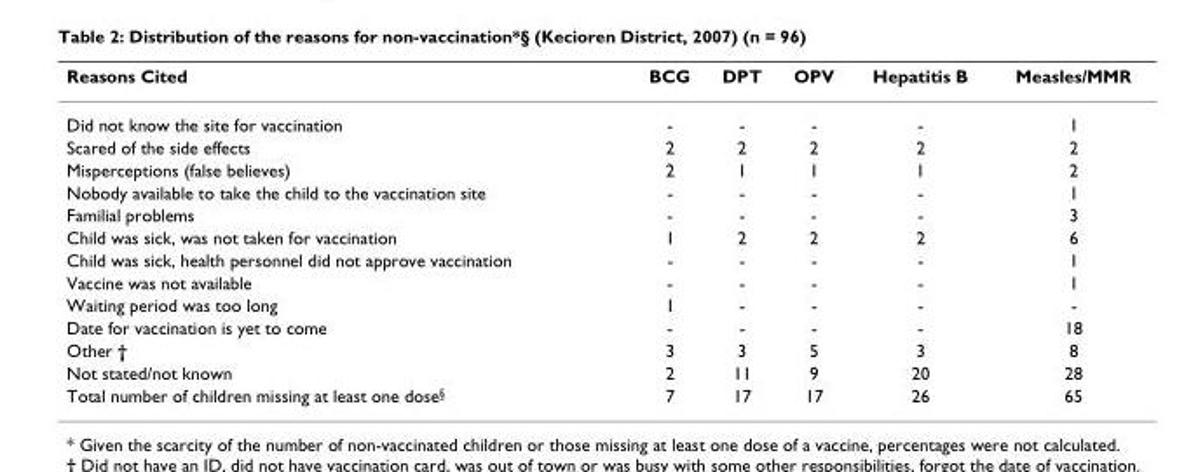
<table><thead><tr><td>Reasons Cited</td><td>BCG</td><td>DPT</td><td>OPV</td><td>Hepatitis B</td><td>Measles/MMR</td></tr></thead><tbody><tr><td>Did not know the site for vaccination</td><td>-</td><td>-</td><td>-</td><td>-</td><td>1</td></tr><tr><td>Scared of the side effects</td><td>2</td><td>2</td><td>2</td><td>2</td><td>2</td></tr><tr><td>Misperceptions (false believes)</td><td>2</td><td>1</td><td>1</td><td>1</td><td>2</td></tr><tr><td>Nobody available to take the child to the vaccination site</td><td>-</td><td>-</td><td>-</td><td>-</td><td>1</td></tr><tr><td>Familial problems</td><td>-</td><td>-</td><td>-</td><td>-</td><td>3</td></tr><tr><td>Child was sick, was not taken for vaccination</td><td>1</td><td>2</td><td>2</td><td>2</td><td>6</td></tr><tr><td>Child was sick, health personnel did not approve vaccination</td><td>-</td><td>-</td><td>-</td><td>-</td><td>1</td></tr><tr><td>Vaccine was not available</td><td>-</td><td>-</td><td>-</td><td>-</td><td>1</td></tr><tr><td>Waiting period was too long</td><td>1</td><td>-</td><td>-</td><td>-</td><td>-</td></tr><tr><td>Date for vaccination is yet to come</td><td>-</td><td>-</td><td>-</td><td>-</td><td>18</td></tr><tr><td>Other †</td><td>3</td><td>3</td><td>5</td><td>3</td><td>8</td></tr><tr><td>Not stated/not known</td><td>2</td><td>11</td><td>9</td><td>20</td><td>28</td></tr><tr><td>Total number of children missing at least one dose<sup>§</sup></td><td>7</td><td>17</td><td>17</td><td>26</td><td>65</td></tr></tbody></table>